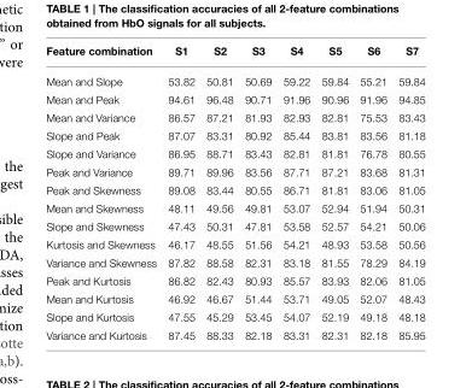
<table><thead><tr><td>Feature combination</td><td>S1</td><td>S2</td><td>S3</td><td>S4</td><td>S5</td><td>S6</td><td>S7</td></tr></thead><tbody><tr><td>Mean and Slope</td><td>53.82</td><td>50.81</td><td>50.69</td><td>59.22</td><td>59.84</td><td>55.21</td><td>59.84</td></tr><tr><td>Mean and Peak</td><td>94.61</td><td>96.48</td><td>90.71</td><td>91.96</td><td>90.96</td><td>91.96</td><td>94.85</td></tr><tr><td>Mean and Variance</td><td>86.57</td><td>87.21</td><td>81.93</td><td>82.93</td><td>82.81</td><td>75.53</td><td>83.43</td></tr><tr><td>Slope and Peak</td><td>87.07</td><td>83.31</td><td>80.92</td><td>85.44</td><td>83.81</td><td>83.56</td><td>81.18</td></tr><tr><td>Slope and Variance</td><td>86.95</td><td>88.71</td><td>83.43</td><td>82.81</td><td>81.81</td><td>76.78</td><td>80.55</td></tr><tr><td>Peak and Variance</td><td>89.71</td><td>89.96</td><td>83.56</td><td>87.71</td><td>87.21</td><td>83.68</td><td>81.31</td></tr><tr><td>Peak and Skewness</td><td>89.08</td><td>83.44</td><td>80.55</td><td>86.71</td><td>81.81</td><td>83.06</td><td>81.05</td></tr><tr><td>Mean and Skewness</td><td>48.11</td><td>49.56</td><td>49.81</td><td>53.07</td><td>52.94</td><td>51.94</td><td>50.31</td></tr><tr><td>Slope and Skewness</td><td>47.43</td><td>50.31</td><td>47.81</td><td>53.58</td><td>52.57</td><td>54.21</td><td>50.06</td></tr><tr><td>Kurtosis and Skewness</td><td>46.17</td><td>48.55</td><td>51.56</td><td>54.21</td><td>48.93</td><td>53.58</td><td>50.56</td></tr><tr><td>Variance and Skewness</td><td>87.82</td><td>88.58</td><td>82.31</td><td>83.18</td><td>81.55</td><td>78.29</td><td>84.19</td></tr><tr><td>Peak and Kurtosis</td><td>86.82</td><td>82.43</td><td>80.93</td><td>85.57</td><td>83.93</td><td>82.06</td><td>81.05</td></tr><tr><td>Mean and Kurtosis</td><td>46.92</td><td>46.67</td><td>51.44</td><td>53.71</td><td>49.05</td><td>52.07</td><td>48.43</td></tr><tr><td>Slope and Kurtosis</td><td>47.55</td><td>45.29</td><td>53.45</td><td>54.07</td><td>52.19</td><td>49.18</td><td>48.18</td></tr><tr><td>Variance and Kurtosis</td><td>87.45</td><td>88.33</td><td>82.18</td><td>83.31</td><td>82.31</td><td>82.18</td><td>85.95</td></tr></tbody></table>